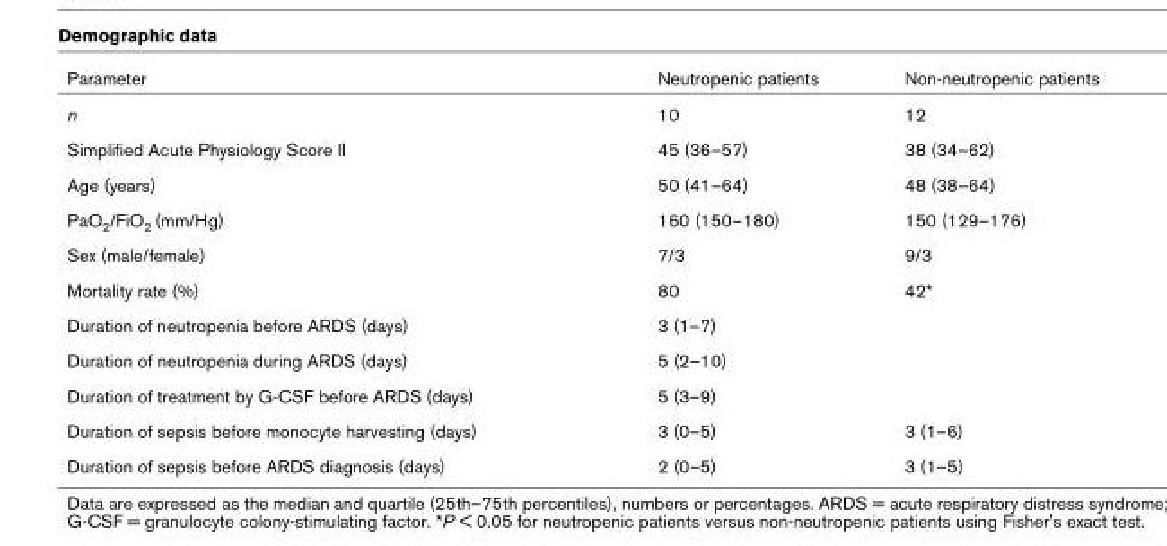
<table><thead><tr><td>Parameter</td><td>Neutropenic patients</td><td>Non-neutropenic patients</td></tr></thead><tbody><tr><td>n</td><td>10</td><td>12</td></tr><tr><td>Simplified Acute Physiology Score II</td><td>45 (36–57)</td><td>38 (34–62)</td></tr><tr><td>Age (years)</td><td>50 (41–64)</td><td>48 (38–64)</td></tr><tr><td>PaO<sub>2</sub>/FiO<sub>2</sub> (mm/Hg)</td><td>160 (150–180)</td><td>150 (129–176)</td></tr><tr><td>Sex (male/female)</td><td>7/3</td><td>9/3</td></tr><tr><td>Mortality rate (%)</td><td>80</td><td>42*</td></tr><tr><td>Duration of neutropenia before ARDS (days)</td><td>3 (1–7)</td><td></td></tr><tr><td>Duration of neutropenia during ARDS (days)</td><td>5 (2–10)</td><td></td></tr><tr><td>Duration of treatment by G-CSF before ARDS (days)</td><td>5 (3–9)</td><td></td></tr><tr><td>Duration of sepsis before monocyte harvesting (days)</td><td>3 (0–5)</td><td>3 (1–6)</td></tr><tr><td>Duration of sepsis before ARDS diagnosis (days)</td><td>2 (0–5)</td><td>3 (1–5)</td></tr></tbody></table>